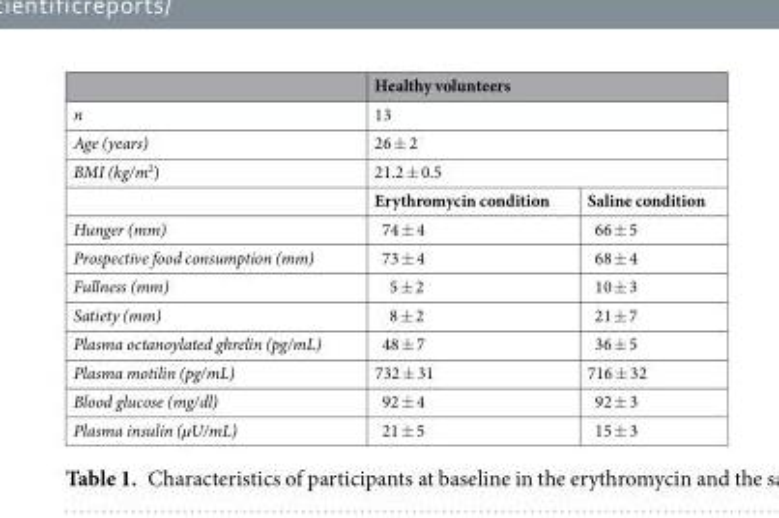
<table><thead><tr><td></td><td colspan="2">Healthy volunteers</td></tr></thead><tbody><tr><td>n</td><td colspan="2">13</td></tr><tr><td>Age (years)</td><td colspan="2">26 ± 2</td></tr><tr><td rowspan="2">BMI (kg/m<sup>2</sup>)</td><td colspan="2">21.2 ± 0.5</td></tr><tr><td>Erythromycin condition</td><td>Saline condition</td></tr><tr><td>Hunger (mm)</td><td>74 ± 4</td><td>66 ± 5</td></tr><tr><td>Prospective food consumption (mm)</td><td>73 ± 4</td><td>68 ± 4</td></tr><tr><td>Fullness (mm)</td><td>5 ± 2</td><td>10 ± 3</td></tr><tr><td>Satiety (mm)</td><td>8 ± 2</td><td>21 ± 7</td></tr><tr><td>Plasma octanoylated ghrelin (pg/mL)</td><td>48 ± 7</td><td>36 ± 5</td></tr><tr><td>Plasma motilin (pg/mL)</td><td>732 ± 31</td><td>716 ± 32</td></tr><tr><td>Blood glucose (mg/dl)</td><td>92 ± 4</td><td>92 ± 3</td></tr><tr><td>Plasma insulin (µU/mL)</td><td>21 ± 5</td><td>15 ± 3</td></tr></tbody></table>